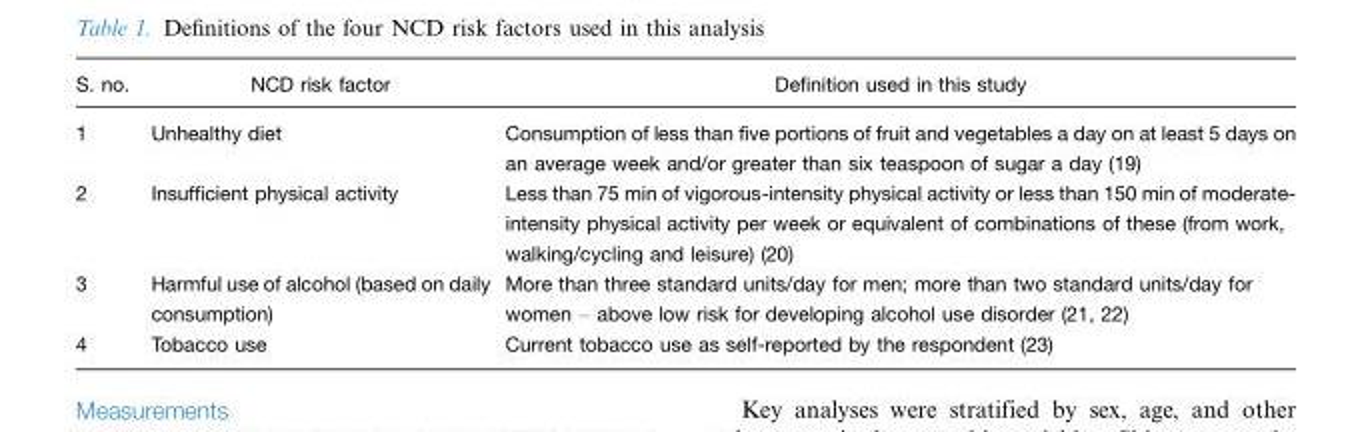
<table><thead><tr><td>S. no.</td><td>NCD risk factor</td><td>Definition used in this study</td></tr></thead><tbody><tr><td>1</td><td>Unhealthy diet</td><td>Consumption of less than five portions of fruit and vegetables a day on at least 5 days on an average week and/or greater than six teaspoon of sugar a day (19)</td></tr><tr><td>2</td><td>Insufficient physical activity</td><td>Less than 75 min of vigorous-intensity physical activity or less than 150 min of moderate- intensity physical activity per week or equivalent of combinations of these (from work, walking/cycling and leisure) (20)</td></tr><tr><td>3</td><td>Harmful use of alcohol (based on daily consumption)</td><td>More than three standard units/day for men; more than two standard units/day for women – above low risk for developing alcohol use disorder (21, 22)</td></tr><tr><td>4</td><td>Tobacco use</td><td>Current tobacco use as self-reported by the respondent (23)</td></tr></tbody></table>